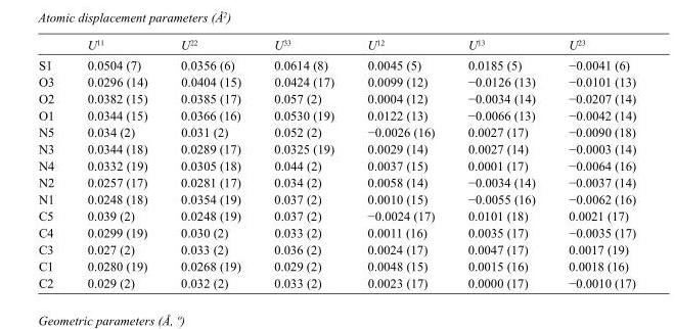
<table><thead><tr><td></td><td>U<sup>11</sup></td><td>U<sup>22</sup></td><td>U<sup>33</sup></td><td>U<sup>12</sup></td><td>U<sup>13</sup></td><td>U<sup>23</sup></td></tr></thead><tbody><tr><td>S1</td><td>0.0504 (7)</td><td>0.0356 (6)</td><td>0.0614 (8)</td><td>0.0045 (5)</td><td>0.0185 (5)</td><td>−0.0041 (6)</td></tr><tr><td>O3</td><td>0.0296 (14)</td><td>0.0404 (15)</td><td>0.0424 (17)</td><td>0.0099 (12)</td><td>−0.0126 (13)</td><td>−0.0101 (13)</td></tr><tr><td>O2</td><td>0.0382 (15)</td><td>0.0385 (17)</td><td>0.057 (2)</td><td>0.0004 (12)</td><td>−0.0034 (14)</td><td>−0.0207 (14)</td></tr><tr><td>O1</td><td>0.0344 (15)</td><td>0.0366 (16)</td><td>0.0530 (19)</td><td>0.0122 (13)</td><td>−0.0066 (13)</td><td>−0.0042 (14)</td></tr><tr><td>N5</td><td>0.034 (2)</td><td>0.031 (2)</td><td>0.052 (2)</td><td>−0.0026 (16)</td><td>0.0027 (17)</td><td>−0.0090 (18)</td></tr><tr><td>N3</td><td>0.0344 (18)</td><td>0.0289 (17)</td><td>0.0325 (19)</td><td>0.0029 (14)</td><td>0.0027 (14)</td><td>−0.0003 (14)</td></tr><tr><td>N4</td><td>0.0332 (19)</td><td>0.0305 (18)</td><td>0.044 (2)</td><td>0.0037 (15)</td><td>0.0001 (17)</td><td>−0.0064 (16)</td></tr><tr><td>N2</td><td>0.0257 (17)</td><td>0.0281 (17)</td><td>0.034 (2)</td><td>0.0058 (14)</td><td>−0.0034 (14)</td><td>−0.0037 (14)</td></tr><tr><td>N1</td><td>0.0248 (18)</td><td>0.0354 (19)</td><td>0.037 (2)</td><td>0.0010 (15)</td><td>−0.0055 (16)</td><td>−0.0062 (16)</td></tr><tr><td>C5</td><td>0.039 (2)</td><td>0.0248 (19)</td><td>0.037 (2)</td><td>−0.0024 (17)</td><td>0.0101 (18)</td><td>0.0021 (17)</td></tr><tr><td>C4</td><td>0.0299 (19)</td><td>0.030 (2)</td><td>0.033 (2)</td><td>0.0011 (16)</td><td>0.0035 (17)</td><td>−0.0035 (17)</td></tr><tr><td>C3</td><td>0.027 (2)</td><td>0.033 (2)</td><td>0.036 (2)</td><td>0.0024 (17)</td><td>0.0047 (17)</td><td>0.0017 (19)</td></tr><tr><td>C1</td><td>0.0280 (19)</td><td>0.0268 (19)</td><td>0.029 (2)</td><td>0.0048 (15)</td><td>0.0015 (16)</td><td>0.0018 (16)</td></tr><tr><td>C2</td><td>0.029 (2)</td><td>0.032 (2)</td><td>0.033 (2)</td><td>0.0023 (17)</td><td>0.0000 (17)</td><td>−0.0010 (17)</td></tr></tbody></table>